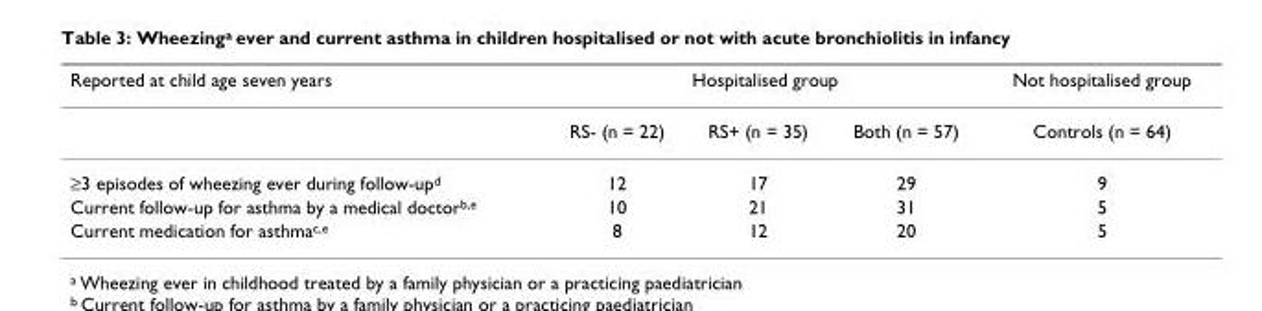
<table><thead><tr><td rowspan="2">Reported at child age seven years</td><td colspan="3">Hospitalised group</td><td rowspan="2">Not hospitalised group Controls (n = 64)</td></tr><tr><td>RS- (n = 22)</td><td>RS+ (n = 35)</td><td>Both (n = 57)</td></tr></thead><tbody><tr><td>≥3 episodes of wheezing ever during follow-up<sup>d</sup></td><td>12</td><td>17</td><td>29</td><td>9</td></tr><tr><td>Current follow-up for asthma by a medical doctor<sup>b,e</sup></td><td>10</td><td>21</td><td>31</td><td>5</td></tr><tr><td>Current medication for asthma<sup>c,e</sup></td><td>8</td><td>12</td><td>20</td><td>5</td></tr></tbody></table>